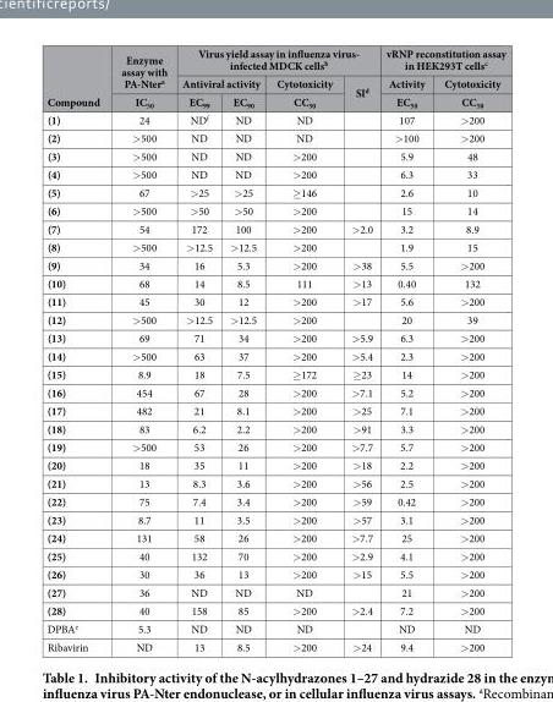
<table><thead><tr><td rowspan="3">Compound</td><td rowspan="3">Enzyme assay with PA-Nter<sup>a</sup> IC<sub>50</sub></td><td colspan="4">Virus yield assay in influenza virus- infected MDCK cells<sup>b</sup></td><td colspan="2">vRNP reconstitution assay in HEK293T cells<sup>c</sup></td></tr><tr><td colspan="2">Antiviral activity</td><td rowspan="2">Cytotoxicity CC<sub>50</sub></td><td rowspan="2">SI<sup>d</sup></td><td rowspan="2">Activity EC<sub>50</sub></td><td rowspan="2">Cytotoxicity CC<sub>50</sub></td></tr><tr><td>EC<sub>99</sub></td><td>EC<sub>90</sub></td></tr></thead><tbody><tr><td>(1)</td><td>24</td><td>ND<sup>f</sup></td><td>ND</td><td>ND</td><td></td><td>107</td><td>&gt; 200</td></tr><tr><td>(2)</td><td>&gt; 500</td><td>ND</td><td>ND</td><td>ND</td><td></td><td>&gt; 100</td><td>&gt; 200</td></tr><tr><td>(3)</td><td>&gt; 500</td><td>ND</td><td>ND</td><td>&gt; 200</td><td></td><td>5.9</td><td>48</td></tr><tr><td>(4)</td><td>&gt; 500</td><td>ND</td><td>ND</td><td>&gt; 200</td><td></td><td>6.3</td><td>33</td></tr><tr><td>(5)</td><td>67</td><td>&gt; 25</td><td>&gt; 25</td><td>≥ 146</td><td></td><td>2.6</td><td>10</td></tr><tr><td>(6)</td><td>&gt; 500</td><td>&gt; 50</td><td>&gt; 50</td><td>&gt; 200</td><td></td><td>15</td><td>14</td></tr><tr><td>(7)</td><td>54</td><td>172</td><td>100</td><td>&gt; 200</td><td>&gt; 2.0</td><td>3.2</td><td>8.9</td></tr><tr><td>(8)</td><td>&gt; 500</td><td>&gt; 12.5</td><td>&gt; 12.5</td><td>&gt; 200</td><td></td><td>1.9</td><td>15</td></tr><tr><td>(9)</td><td>34</td><td>16</td><td>5.3</td><td>&gt; 200</td><td>&gt; 38</td><td>5.5</td><td>&gt; 200</td></tr><tr><td>(10)</td><td>68</td><td>14</td><td>8.5</td><td>111</td><td>&gt; 13</td><td>0.40</td><td>132</td></tr><tr><td>(11)</td><td>45</td><td>30</td><td>12</td><td>&gt; 200</td><td>&gt; 17</td><td>5.6</td><td>&gt; 200</td></tr><tr><td>(12)</td><td>&gt; 500</td><td>&gt; 12.5</td><td>&gt; 12.5</td><td>&gt; 200</td><td></td><td>20</td><td>39</td></tr><tr><td>(13)</td><td>69</td><td>71</td><td>34</td><td>&gt; 200</td><td>&gt; 5.9</td><td>6.3</td><td>&gt; 200</td></tr><tr><td>(14)</td><td>&gt; 500</td><td>63</td><td>37</td><td>&gt; 200</td><td>&gt; 5.4</td><td>2.3</td><td>&gt; 200</td></tr><tr><td>(15)</td><td>8.9</td><td>18</td><td>7.5</td><td>≥ 172</td><td>≥ 23</td><td>14</td><td>&gt; 200</td></tr><tr><td>(16)</td><td>454</td><td>67</td><td>28</td><td>&gt; 200</td><td>&gt; 7.1</td><td>5.2</td><td>&gt; 200</td></tr><tr><td>(17)</td><td>482</td><td>21</td><td>8.1</td><td>&gt; 200</td><td>&gt; 25</td><td>7.1</td><td>&gt; 200</td></tr><tr><td>(18)</td><td>83</td><td>6.2</td><td>2.2</td><td>&gt; 200</td><td>&gt; 91</td><td>3.3</td><td>&gt; 200</td></tr><tr><td>(19)</td><td>&gt; 500</td><td>53</td><td>26</td><td>&gt; 200</td><td>&gt; 7.7</td><td>5.7</td><td>&gt; 200</td></tr><tr><td>(20)</td><td>18</td><td>35</td><td>11</td><td>&gt; 200</td><td>&gt; 18</td><td>2.2</td><td>&gt; 200</td></tr><tr><td>(21)</td><td>13</td><td>8.3</td><td>3.6</td><td>&gt; 200</td><td>&gt; 56</td><td>2.5</td><td>&gt; 200</td></tr><tr><td>(22)</td><td>75</td><td>7.4</td><td>3.4</td><td>&gt; 200</td><td>&gt; 59</td><td>0.42</td><td>&gt; 200</td></tr><tr><td>(23)</td><td>8.7</td><td>11</td><td>3.5</td><td>&gt; 200</td><td>&gt; 57</td><td>3.1</td><td>&gt; 200</td></tr><tr><td>(24)</td><td>131</td><td>58</td><td>26</td><td>&gt; 200</td><td>&gt; 7.7</td><td>25</td><td>&gt; 200</td></tr><tr><td>(25)</td><td>40</td><td>132</td><td>70</td><td>&gt; 200</td><td>&gt; 2.9</td><td>4.1</td><td>&gt; 200</td></tr><tr><td>(26)</td><td>30</td><td>36</td><td>13</td><td>&gt; 200</td><td>&gt; 15</td><td>5.5</td><td>&gt; 200</td></tr><tr><td>(27)</td><td>36</td><td>ND</td><td>ND</td><td>ND</td><td></td><td>21</td><td>&gt; 200</td></tr><tr><td>(28)</td><td>40</td><td>158</td><td>85</td><td>&gt; 200</td><td>&gt; 2.4</td><td>7.2</td><td>&gt; 200</td></tr><tr><td>DPBA<sup>e</sup></td><td>5.3</td><td>ND</td><td>ND</td><td>ND</td><td></td><td>ND</td><td>ND</td></tr><tr><td>Ribavirin</td><td>ND</td><td>13</td><td>8.5</td><td>&gt; 200</td><td>&gt; 24</td><td>9.4</td><td>&gt; 200</td></tr></tbody></table>